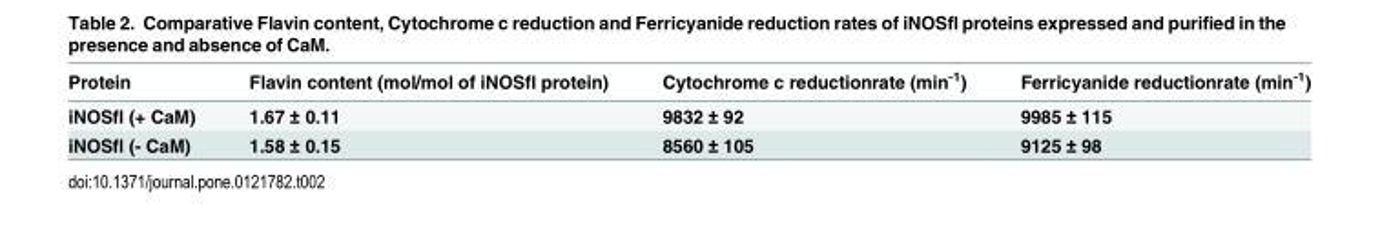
<table><thead><tr><td>Protein</td><td>Flavin content (mol/mol of iNOSfl protein)</td><td>Cytochrome c reductionrate (min<sup>-1</sup>)</td><td>Ferricyanide reductionrate (min<sup>-1</sup>)</td></tr></thead><tbody><tr><td>iNOSfl (+ CaM)</td><td>1.67 ± 0.11</td><td>9832 ± 92</td><td>9985 ± 115</td></tr><tr><td>iNOSfl (- CaM)</td><td>1.58 ± 0.15</td><td>8560 ± 105</td><td>9125 ± 98</td></tr></tbody></table>